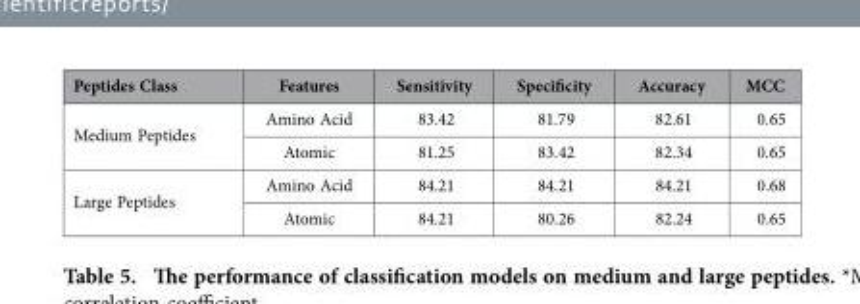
<table><thead><tr><td>Peptides Class</td><td>Features</td><td>Sensitivity</td><td>Specificity</td><td>Accuracy</td><td>MCC</td></tr></thead><tbody><tr><td rowspan="2">Medium Peptides</td><td>Amino Acid</td><td>83.42</td><td>81.79</td><td>82.61</td><td>0.65</td></tr><tr><td>Atomic</td><td>81.25</td><td>83.42</td><td>82.34</td><td>0.65</td></tr><tr><td rowspan="2">Large Peptides</td><td>Amino Acid</td><td>84.21</td><td>84.21</td><td>84.21</td><td>0.68</td></tr><tr><td>Atomic</td><td>84.21</td><td>80.26</td><td>82.24</td><td>0.65</td></tr></tbody></table>